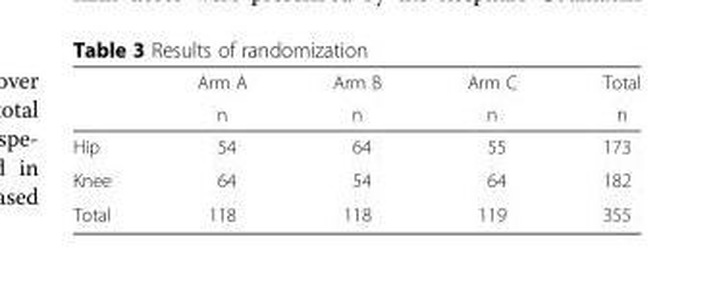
<table><thead><tr><td rowspan="2"></td><td rowspan="2">Arm A n</td><td rowspan="2">Arm B n</td><td rowspan="2">Arm C n</td><td rowspan="2">Total n</td></tr><tr></tr></thead><tbody><tr><td>Hip</td><td>54</td><td>64</td><td>55</td><td>173</td></tr><tr><td>Knee</td><td>64</td><td>54</td><td>64</td><td>182</td></tr><tr><td>Total</td><td>118</td><td>118</td><td>119</td><td>355</td></tr></tbody></table>